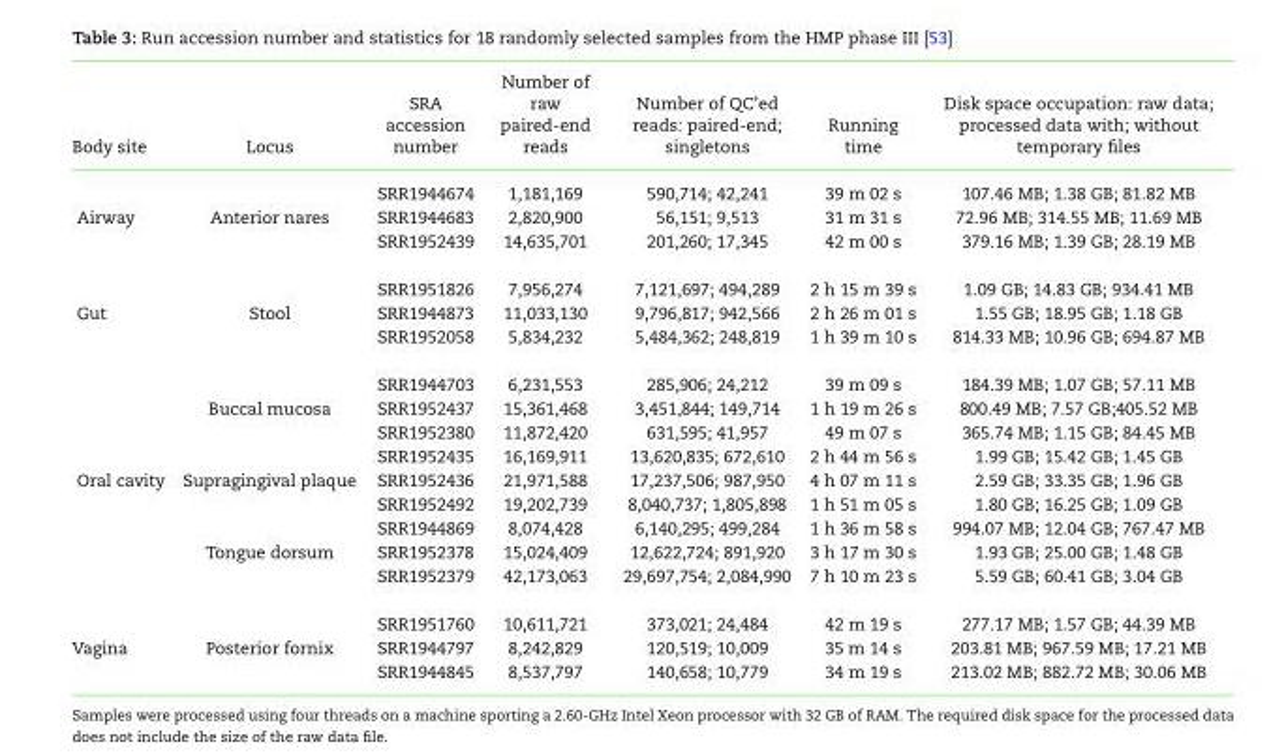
<table><thead><tr><td>Body site</td><td>Locus</td><td>SRA accession number</td><td>Number of raw paired-end reads</td><td>Number of QC’ed reads: paired-end; singletons</td><td>Running time</td><td>Disk space occupation: raw data; processed data with; without temporary files</td></tr></thead><tbody><tr><td></td><td></td><td>SRR1944674</td><td>1,181,169</td><td>590,714; 42,241</td><td>39 m 02 s</td><td>107.46 MB; 1.38 GB; 81.82 MB</td></tr><tr><td rowspan="3">Airway</td><td>Anterior nares</td><td>SRR1944683</td><td>2,820,900</td><td>56,151; 9,513</td><td>31 m 31 s</td><td>72.96 MB; 314.55 MB; 11.69 MB</td></tr><tr><td></td><td>SRR1952439</td><td>14,635,701</td><td>201,260; 17,345</td><td>42 m 00 s</td><td>379.16 MB; 1.39 GB; 28.19 MB</td></tr><tr><td></td><td>SRR1951826</td><td>7,956,274</td><td>7,121,697; 494,289</td><td>2 h 15 m 39 s</td><td>1.09 GB; 14.83 GB; 934.41 MB</td></tr><tr><td rowspan="6">Gut</td><td>Stool</td><td>SRR1944873</td><td>11,033,130</td><td>9,796,817; 942,566</td><td>2 h 26 m 01 s</td><td>1.55 GB; 18.95 GB; 1.18 GB</td></tr><tr><td></td><td>SRR1952058</td><td>5,834,232</td><td>5,484,362; 248,819</td><td>1 h 39 m 10 s</td><td>814.33 MB; 10.96 GB; 694.87 MB</td></tr><tr><td></td><td>SRR1944703</td><td>6,231,553</td><td>285,906; 24,212</td><td>39 m 09 s</td><td>184.39 MB; 1.07 GB; 57.11 MB</td></tr><tr><td>Buccal mucosa</td><td>SRR1952437</td><td>15,361,468</td><td>3,451,844; 149,714</td><td>1 h 19 m 26 s</td><td>800.49 MB; 7.57 GB;405.52 MB</td></tr><tr><td></td><td>SRR1952380</td><td>11,872,420</td><td>631,595; 41,957</td><td>49 m 07 s</td><td>365.74 MB; 1.15 GB; 84.45 MB</td></tr><tr><td></td><td>SRR1952435</td><td>16,169,911</td><td>13,620,835; 672,610</td><td>2 h 44 m 56 s</td><td>1.99 GB; 15.42 GB; 1.45 GB</td></tr><tr><td rowspan="6">Oral cavity</td><td>Supragingival plaque</td><td>SRR1952436</td><td>21,971,588</td><td>17,237,506; 987,950</td><td>4 h 07 m 11 s</td><td>2.59 GB; 33.35 GB; 1.96 GB</td></tr><tr><td></td><td>SRR1952492</td><td>19,202,739</td><td>8,040,737; 1,805,898</td><td>1 h 51 m 05 s</td><td>1.80 GB; 16.25 GB; 1.09 GB</td></tr><tr><td></td><td>SRR1944869</td><td>8,074,428</td><td>6,140,295; 499,284</td><td>1 h 36 m 58 s</td><td>994.07 MB; 12.04 GB; 767.47 MB</td></tr><tr><td>Tongue dorsum</td><td>SRR1952378</td><td>15,024,409</td><td>12,622,724; 891,920</td><td>3 h 17 m 30 s</td><td>1.93 GB; 25.00 GB; 1.48 GB</td></tr><tr><td></td><td>SRR1952379</td><td>42,173,063</td><td>29,697,754; 2,084,990</td><td>7 h 10 m 23 s</td><td>5.59 GB; 60.41 GB; 3.04 GB</td></tr><tr><td></td><td>SRR1951760</td><td>10,611,721</td><td>373,021; 24,484</td><td>42 m 19 s</td><td>277.17 MB; 1.57 GB; 44.39 MB</td></tr><tr><td rowspan="2">Vagina</td><td>Posterior fornix</td><td>SRR1944797</td><td>8,242,829</td><td>120,519; 10,009</td><td>35 m 14 s</td><td>203.81 MB; 967.59 MB; 17.21 MB</td></tr><tr><td></td><td>SRR1944845</td><td>8,537,797</td><td>140,658; 10,779</td><td>34 m 19 s</td><td>213.02 MB; 882.72 MB; 30.06 MB</td></tr></tbody></table>